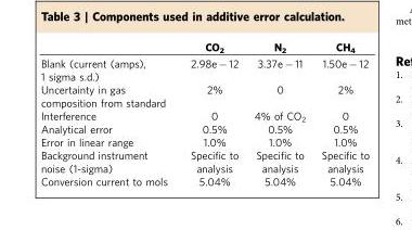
<table><thead><tr><td></td><td>CO<sub>2</sub></td><td>N<sub>2</sub></td><td>CH<sub>4</sub></td></tr></thead><tbody><tr><td>Blank (current (amps), 1 sigma s.d.)</td><td>2.98e − 12</td><td>3.37e − 11</td><td>1.50e − 12</td></tr><tr><td>Uncertainty in gas composition from standard</td><td>2%</td><td>0</td><td>2%</td></tr><tr><td>Interference</td><td>0</td><td>4% of CO<sub>2</sub></td><td>0</td></tr><tr><td>Analytical error</td><td>0.5%</td><td>0.5%</td><td>0.5%</td></tr><tr><td>Error in linear range</td><td>1.0%</td><td>1.0%</td><td>1.0%</td></tr><tr><td>Background instrument noise (1-sigma)</td><td>Specific to analysis</td><td>Specific to analysis</td><td>Specific to analysis</td></tr><tr><td>Conversion current to mols</td><td>5.04%</td><td>5.04%</td><td>5.04%</td></tr></tbody></table>